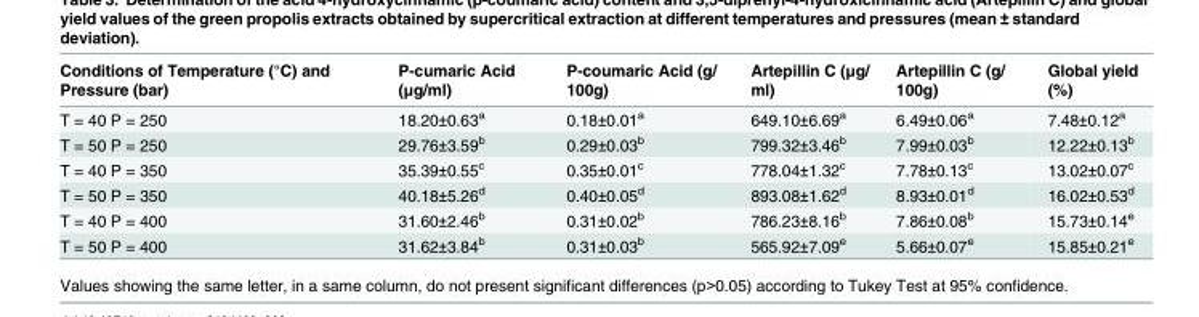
<table><thead><tr><td>Conditions of Temperature (°C) and Pressure (bar)</td><td>P-cumaric Acid (μg/ml)</td><td>P-coumaric Acid (g/ 100g)</td><td>Artepillin C (μg/ ml)</td><td>Artepillin C (g/ 100g)</td><td>Global yield (%)</td></tr></thead><tbody><tr><td>T = 40 P = 250</td><td>18.20±0.63<sup>a</sup></td><td>0.18±0.01<sup>a</sup></td><td>649.10±6.69<sup>a</sup></td><td>6.49±0.06<sup>a</sup></td><td>7.48±0.12<sup>a</sup></td></tr><tr><td>T = 50 P = 250</td><td>29.76±3.59<sup>b</sup></td><td>0.29±0.03<sup>b</sup></td><td>799.32±3.46<sup>b</sup></td><td>7.99±0.03<sup>b</sup></td><td>12.22±0.13<sup>b</sup></td></tr><tr><td>T = 40 P = 350</td><td>35.39±0.55<sup>c</sup></td><td>0.35±0.01<sup>c</sup></td><td>778.04±1.32<sup>c</sup></td><td>7.78±0.13<sup>c</sup></td><td>13.02±0.07<sup>c</sup></td></tr><tr><td>T = 50 P = 350</td><td>40.18±5.26<sup>d</sup></td><td>0.40±0.05<sup>d</sup></td><td>893.08±1.62<sup>d</sup></td><td>8.93±0.01<sup>d</sup></td><td>16.02±0.53<sup>d</sup></td></tr><tr><td>T = 40 P = 400</td><td>31.60±2.46<sup>b</sup></td><td>0.31±0.02<sup>b</sup></td><td>786.23±8.16<sup>b</sup></td><td>7.86±0.08<sup>b</sup></td><td>15.73±0.14<sup>e</sup></td></tr><tr><td>T = 50 P = 400</td><td>31.62±3.84<sup>b</sup></td><td>0.31±0.03<sup>b</sup></td><td>565.92±7.09<sup>e</sup></td><td>5.66±0.07<sup>e</sup></td><td>15.85±0.21<sup>e</sup></td></tr></tbody></table>